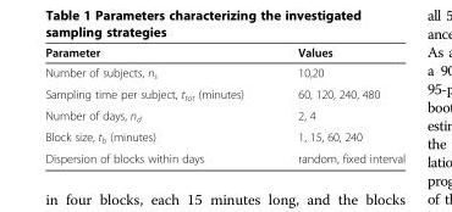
<table><thead><tr><td>Parameter</td><td>Values</td></tr></thead><tbody><tr><td>Number of subjects, n<sub>s</sub></td><td>10,20</td></tr><tr><td>Sampling time per subject, t<sub>tot</sub> (minutes)</td><td>60, 120, 240, 480</td></tr><tr><td>Number of days, n<sub>d</sub></td><td>2, 4</td></tr><tr><td>Block size, t<sub>b</sub> (minutes)</td><td>1, 15, 60, 240</td></tr><tr><td>Dispersion of blocks within days</td><td>random, fixed interval</td></tr></tbody></table>